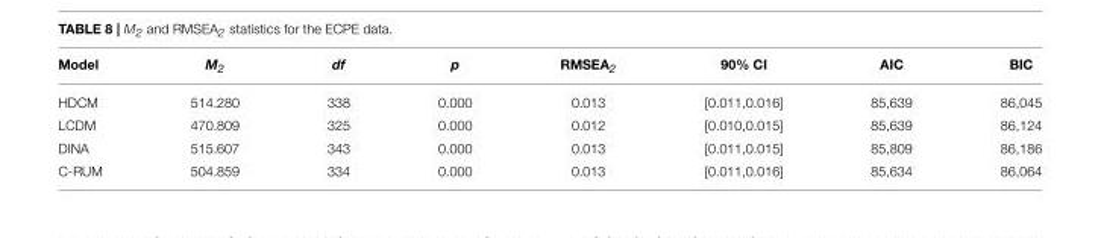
<table><thead><tr><td>Model</td><td>M2</td><td>df</td><td>p</td><td>RMSEA2</td><td>90% CI</td><td>AIC</td><td>BIC</td></tr></thead><tbody><tr><td>HDCM</td><td>514.280</td><td>338</td><td>0.000</td><td>0.013</td><td>[0.011,0.016]</td><td>85,639</td><td>86,045</td></tr><tr><td>LCDM</td><td>470.809</td><td>325</td><td>0.000</td><td>0.012</td><td>[0.010,0.015]</td><td>85,639</td><td>86,124</td></tr><tr><td>DINA</td><td>515.607</td><td>343</td><td>0.000</td><td>0.013</td><td>[0.011,0.015]</td><td>85,809</td><td>86,186</td></tr><tr><td>C-RUM</td><td>504.859</td><td>334</td><td>0.000</td><td>0.013</td><td>[0.011,0.016]</td><td>85,634</td><td>86,064</td></tr></tbody></table>